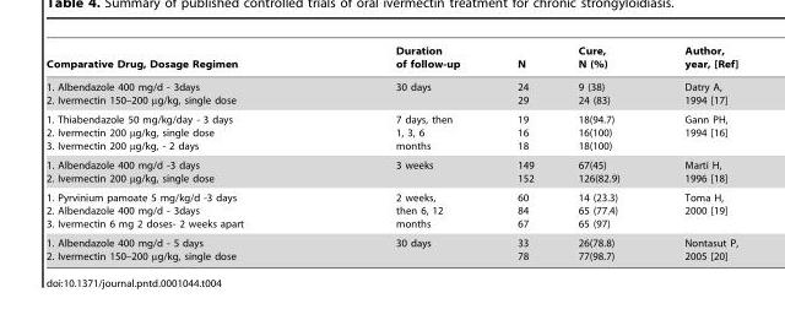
<table><thead><tr><td>Comparative Drug, Dosage Regimen</td><td>Duration of follow-up</td><td>N</td><td>Cure, N (%)</td><td>Author, year, [Ref]</td></tr></thead><tbody><tr><td>1. Albendazole 400 mg/d - 3days 2. Ivermectin 150–200 µg/kg, single dose</td><td>30 days</td><td>24 29</td><td>9 (38) 24 (83)</td><td>Datry A, 1994 [17]</td></tr><tr><td>1. Thiabendazole 50 mg/kg/day - 3 days 2. Ivermectin 200 µg/kg, single dose 3. Ivermectin 200 µg/kg, - 2 days</td><td>7 days, then 1, 3, 6 months</td><td>19 16 18</td><td>18(94.7) 16(100) 18(100)</td><td>Gann PH, 1994 [16]</td></tr><tr><td>1. Albendazole 400 mg/d -3 days 2. Ivermectin 200 µg/kg, single dose</td><td>3 weeks</td><td>149 152</td><td>67(45) 126(82.9)</td><td>Marti H, 1996 [18]</td></tr><tr><td>1. Pyrvinium pamoate 5 mg/kg/d -3 days 2. Albendazole 400 mg/d - 3days 3. Ivermectin 6 mg 2 doses- 2 weeks apart</td><td>2 weeks, then 6, 12 months</td><td>60 84 67</td><td>14 (23.3) 65 (77.4) 65 (97)</td><td>Toma H, 2000 [19]</td></tr><tr><td>1. Albendazole 400 mg/d - 5 days 2. Ivermectin 150–200 µg/kg, single dose</td><td>30 days</td><td>33 78</td><td>26(78.8) 77(98.7)</td><td>Nontasut P, 2005 [20]</td></tr></tbody></table>